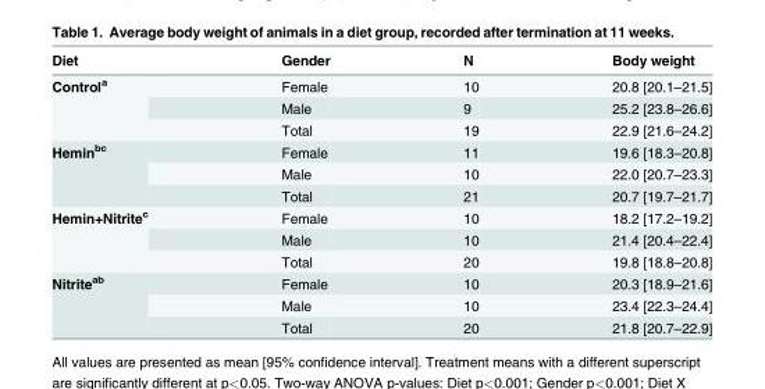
<table><thead><tr><td>Diet</td><td>Gender</td><td>N</td><td>Body weight</td></tr></thead><tbody><tr><td rowspan="3">Control<sup>a</sup></td><td>Female</td><td>10</td><td>20.8 [20.1–21.5]</td></tr><tr><td>Male</td><td>9</td><td>25.2 [23.8–26.6]</td></tr><tr><td>Total</td><td>19</td><td>22.9 [21.6–24.2]</td></tr><tr><td rowspan="3">Hemin<sup>bc</sup></td><td>Female</td><td>11</td><td>19.6 [18.3–20.8]</td></tr><tr><td>Male</td><td>10</td><td>22.0 [20.7–23.3]</td></tr><tr><td>Total</td><td>21</td><td>20.7 [19.7–21.7]</td></tr><tr><td rowspan="3">Hemin+Nitrite<sup>c</sup></td><td>Female</td><td>10</td><td>18.2 [17.2–19.2]</td></tr><tr><td>Male</td><td>10</td><td>21.4 [20.4–22.4]</td></tr><tr><td>Total</td><td>20</td><td>19.8 [18.8–20.8]</td></tr><tr><td rowspan="3">Nitrite<sup>ab</sup></td><td>Female</td><td>10</td><td>20.3 [18.9–21.6]</td></tr><tr><td>Male</td><td>10</td><td>23.4 [22.3–24.4]</td></tr><tr><td>Total</td><td>20</td><td>21.8 [20.7–22.9]</td></tr></tbody></table>